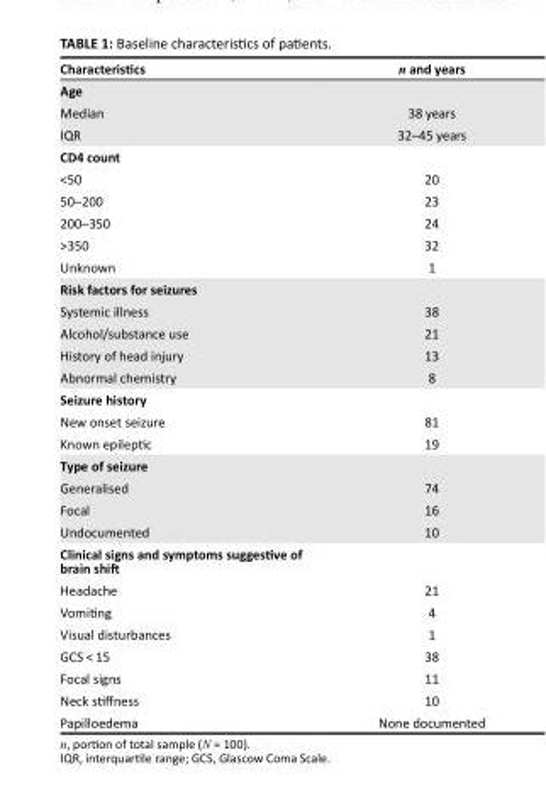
<table><thead><tr><td>Characteristics</td><td>n and years</td></tr></thead><tbody><tr><td colspan="2">Age</td></tr><tr><td>Median</td><td>38 years</td></tr><tr><td>IQR</td><td>32–45 years</td></tr><tr><td colspan="2">CD4 count</td></tr><tr><td>&lt;50</td><td>20</td></tr><tr><td>50–200</td><td>23</td></tr><tr><td>200–350</td><td>24</td></tr><tr><td>&gt;350</td><td>32</td></tr><tr><td>Unknown</td><td>1</td></tr><tr><td colspan="2">Risk factors for seizures</td></tr><tr><td>Systemic illness</td><td>38</td></tr><tr><td>Alcohol/substance use</td><td>21</td></tr><tr><td>History of head injury</td><td>13</td></tr><tr><td>Abnormal chemistry</td><td>8</td></tr><tr><td colspan="2">Seizure history</td></tr><tr><td>New onset seizure</td><td>81</td></tr><tr><td>Known epileptic</td><td>19</td></tr><tr><td colspan="2">Type of seizure</td></tr><tr><td>Generalised</td><td>74</td></tr><tr><td>Focal</td><td>16</td></tr><tr><td>Undocumented</td><td>10</td></tr><tr><td colspan="2">Clinical signs and symptoms suggestive of brain shift</td></tr><tr><td>Headache</td><td>21</td></tr><tr><td>Vomiting</td><td>4</td></tr><tr><td>Visual disturbances</td><td>1</td></tr><tr><td>GCS &lt; 15</td><td>38</td></tr><tr><td>Focal signs</td><td>11</td></tr><tr><td>Neck stiffness</td><td>10</td></tr><tr><td>Papilloedema</td><td>None documented</td></tr></tbody></table>